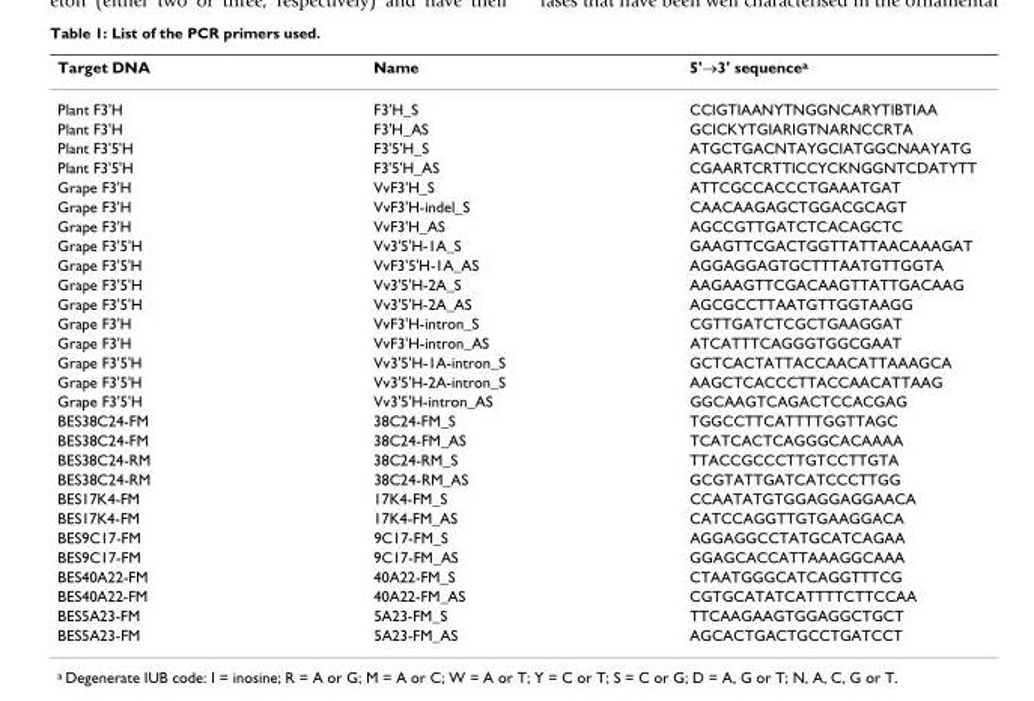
<table><thead><tr><td>Target DNA</td><td>Name</td><td>5&#x27;→3&#x27; sequence<sup>a</sup></td></tr></thead><tbody><tr><td>Plant F3&#x27;H</td><td>F3&#x27;H_S</td><td>CCIGTIAANYTNGGNCARYTIBTIAA</td></tr><tr><td>Plant F3&#x27;H</td><td>F3&#x27;H_AS</td><td>GCICKYTGIARIGTNARNCCRTA</td></tr><tr><td>Plant F3&#x27;5&#x27;H</td><td>F3&#x27;5&#x27;H_S</td><td>ATGCTGACNTAYGCIATGGCNAAYATG</td></tr><tr><td>Plant F3&#x27;5&#x27;H</td><td>F3&#x27;5&#x27;H_AS</td><td>CGAARTCRTTICCYCKNGGNTCDATYTT</td></tr><tr><td>Grape F3&#x27;H</td><td>VvF3&#x27;H_S</td><td>ATTCGCCACCCTGAAATGAT</td></tr><tr><td>Grape F3&#x27;H</td><td>VvF3&#x27;H-indel_S</td><td>CAACAAGAGCTGGACGCAGT</td></tr><tr><td>Grape F3&#x27;H</td><td>VvF3&#x27;H_AS</td><td>AGCCGTTGATCTCACAGCTC</td></tr><tr><td>Grape F3&#x27;5&#x27;H</td><td>Vv3&#x27;5&#x27;H-1A_S</td><td>GAAGTTCGACTGGTTATTAACAAAGAT</td></tr><tr><td>Grape F3&#x27;5&#x27;H</td><td>VvF3&#x27;5&#x27;H-1A_AS</td><td>AGGAGGAGTGCTTTAATGTTGGTA</td></tr><tr><td>Grape F3&#x27;5&#x27;H</td><td>Vv3&#x27;5&#x27;H-2A_S</td><td>AAGAAGTTCGACAAGTTATTGACAAG</td></tr><tr><td>Grape F3&#x27;5&#x27;H</td><td>Vv3&#x27;5&#x27;H-2A_AS</td><td>AGCGCCTTAATGTTGGTAAGG</td></tr><tr><td>Grape F3&#x27;H</td><td>VvF3&#x27;H-intron_S</td><td>CGTTGATCTCGCTGAAGGAT</td></tr><tr><td>Grape F3&#x27;H</td><td>VvF3&#x27;H-intron_AS</td><td>ATCATTTCAGGGTGGCGAAT</td></tr><tr><td>Grape F3&#x27;5&#x27;H</td><td>Vv3&#x27;5&#x27;H-1A-intron_S</td><td>GCTCACTATTACCAACATTAAAGCA</td></tr><tr><td>Grape F3&#x27;5&#x27;H</td><td>Vv3&#x27;5&#x27;H-2A-intron_S</td><td>AAGCTCACCCTTACCAACATTAAG</td></tr><tr><td>Grape F3&#x27;5&#x27;H</td><td>Vv3&#x27;5&#x27;H-intron_AS</td><td>GGCAAGTCAGACTCCACGAG</td></tr><tr><td>BES38C24-FM</td><td>38C24-FM_S</td><td>TGGCCTTCATTTTGGTTAGC</td></tr><tr><td>BES38C24-FM</td><td>38C24-FM_AS</td><td>TCATCACTCAGGGCACAAAA</td></tr><tr><td>BES38C24-RM</td><td>38C24-RM_S</td><td>TTACCGCCCTTGTCCTTGTA</td></tr><tr><td>BES38C24-RM</td><td>38C24-RM_AS</td><td>GCGTATTGATCATCCCTTGG</td></tr><tr><td>BES17K4-FM</td><td>17K4-FM_S</td><td>CCAATATGTGGAGGAGGAACA</td></tr><tr><td>BES17K4-FM</td><td>17K4-FM_AS</td><td>CATCCAGGTTGTGAAGGACA</td></tr><tr><td>BES9C17-FM</td><td>9C17-FM_S</td><td>AGGAGGCCTATGCATCAGAA</td></tr><tr><td>BES9C17-FM</td><td>9C17-FM_AS</td><td>GGAGCACCATTAAAGGCAAA</td></tr><tr><td>BES40A22-FM</td><td>40A22-FM_S</td><td>CTAATGGGCATCAGGTTTCG</td></tr><tr><td>BES40A22-FM</td><td>40A22-FM_AS</td><td>CGTGCATATCATTTTCTTCCAA</td></tr><tr><td>BES5A23-FM</td><td>5A23-FM_S</td><td>TTCAAGAAGTGGAGGCTGCT</td></tr><tr><td>BES5A23-FM</td><td>5A23-FM_AS</td><td>AGCACTGACTGCCTGATCCT</td></tr></tbody></table>